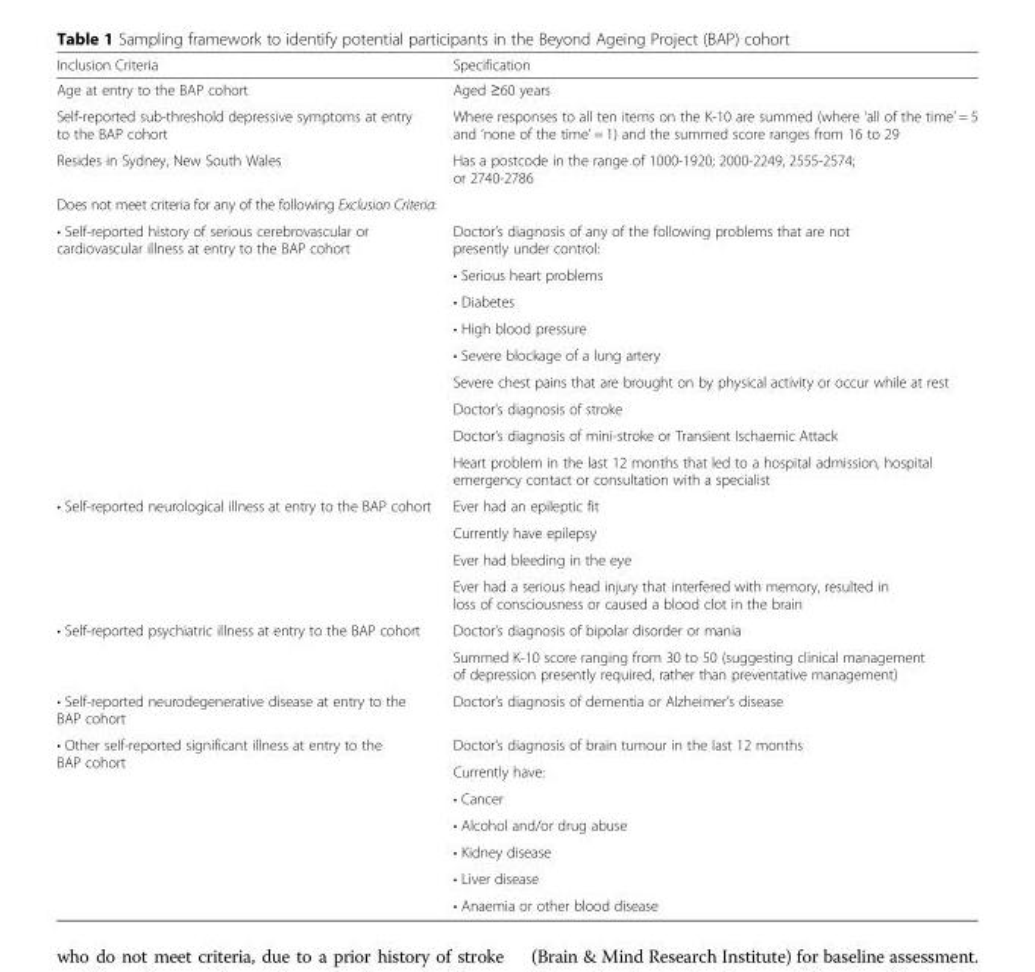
<table><thead><tr><td>Inclusion Criteria</td><td>Specification</td></tr></thead><tbody><tr><td>Age at entry to the BAP cohort</td><td>Aged ≥60 years</td></tr><tr><td>Self-reported sub-threshold depressive symptoms at entry to the BAP cohort</td><td>Where responses to all ten items on the K-10 are summed (where ‘all of the time’ = 5 and ‘none of the time’ = 1) and the summed score ranges from 16 to 29</td></tr><tr><td>Resides in Sydney, New South Wales</td><td>Has a postcode in the range of 1000-1920; 2000-2249, 2555-2574; or 2740-2786</td></tr><tr><td colspan="2">Does not meet criteria for any of the following Exclusion Criteria:</td></tr><tr><td rowspan="9">• Self-reported history of serious cerebrovascular or cardiovascular illness at entry to the BAP cohort</td><td>Doctor’s diagnosis of any of the following problems that are not presently under control:</td></tr><tr><td>• Serious heart problems</td></tr><tr><td>• Diabetes</td></tr><tr><td>• High blood pressure</td></tr><tr><td>• Severe blockage of a lung artery</td></tr><tr><td>Severe chest pains that are brought on by physical activity or occur while at rest</td></tr><tr><td>Doctor’s diagnosis of stroke</td></tr><tr><td>Doctor’s diagnosis of mini-stroke or Transient Ischaemic Attack</td></tr><tr><td>Heart problem in the last 12 months that led to a hospital admission, hospital emergency contact or consultation with a specialist</td></tr><tr><td rowspan="4">• Self-reported neurological illness at entry to the BAP cohort</td><td>Ever had an epileptic fit</td></tr><tr><td>Currently have epilepsy</td></tr><tr><td>Ever had bleeding in the eye</td></tr><tr><td>Ever had a serious head injury that interfered with memory, resulted in loss of consciousness or caused a blood clot in the brain</td></tr><tr><td rowspan="2">• Self-reported psychiatric illness at entry to the BAP cohort</td><td>Doctor’s diagnosis of bipolar disorder or mania</td></tr><tr><td>Summed K-10 score ranging from 30 to 50 (suggesting clinical management of depression presently required, rather than preventative management)</td></tr><tr><td>• Self-reported neurodegenerative disease at entry to the BAP cohort</td><td>Doctor’s diagnosis of dementia or Alzheimer’s disease</td></tr><tr><td rowspan="7">• Other self-reported significant illness at entry to the BAP cohort</td><td>Doctor’s diagnosis of brain tumour in the last 12 months</td></tr><tr><td>Currently have:</td></tr><tr><td>• Cancer</td></tr><tr><td>• Alcohol and/or drug abuse</td></tr><tr><td>• Kidney disease</td></tr><tr><td>• Liver disease</td></tr><tr><td>• Anaemia or other blood disease</td></tr></tbody></table>